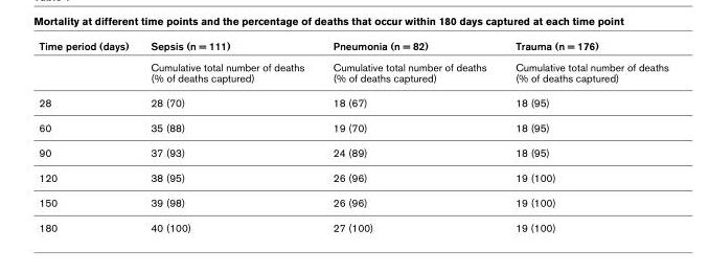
<table><thead><tr><td>Time period (days)</td><td>Sepsis (n = 111)</td><td>Pneumonia (n = 82)</td><td>Trauma (n = 176)</td></tr></thead><tbody><tr><td></td><td>Cumulative total number of deaths (% of deaths captured)</td><td>Cumulative total number of deaths (% of deaths captured)</td><td>Cumulative total number of deaths (% of deaths captured)</td></tr><tr><td>28</td><td>28 (70)</td><td>18 (67)</td><td>18 (95)</td></tr><tr><td>60</td><td>35 (88)</td><td>19 (70)</td><td>18 (95)</td></tr><tr><td>90</td><td>37 (93)</td><td>24 (89)</td><td>18 (95)</td></tr><tr><td>120</td><td>38 (95)</td><td>26 (96)</td><td>19 (100)</td></tr><tr><td>150</td><td>39 (98)</td><td>26 (96)</td><td>19 (100)</td></tr><tr><td>180</td><td>40 (100)</td><td>27 (100)</td><td>19 (100)</td></tr></tbody></table>